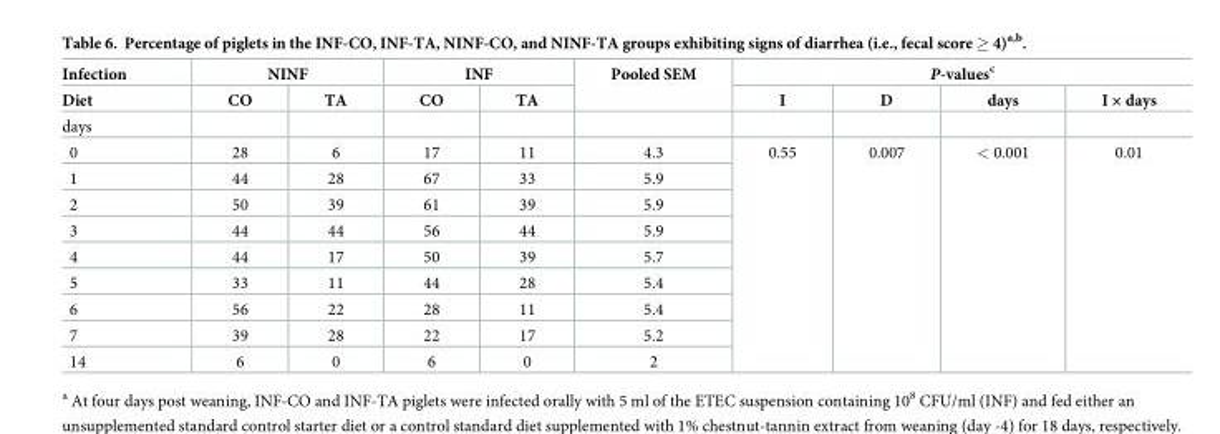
<table><thead><tr><td rowspan="2">Infection Diet</td><td colspan="2">NINF</td><td colspan="2">INF</td><td rowspan="2">Pooled SEM</td><td colspan="4">P-values<sup>c</sup></td></tr><tr><td>CO</td><td>TA</td><td>CO</td><td>TA</td><td>I</td><td>D</td><td>days</td><td>I × days</td></tr></thead><tbody><tr><td colspan="10">days</td></tr><tr><td>0</td><td>28</td><td>6</td><td>17</td><td>11</td><td>4.3</td><td rowspan="9">0.55</td><td rowspan="9">0.007</td><td rowspan="9">&lt; 0.001</td><td rowspan="9">0.01</td></tr><tr><td>1</td><td>44</td><td>28</td><td>67</td><td>33</td><td>5.9</td></tr><tr><td>2</td><td>50</td><td>39</td><td>61</td><td>39</td><td>5.9</td></tr><tr><td>3</td><td>44</td><td>44</td><td>56</td><td>44</td><td>5.9</td></tr><tr><td>4</td><td>44</td><td>17</td><td>50</td><td>39</td><td>5.7</td></tr><tr><td>5</td><td>33</td><td>11</td><td>44</td><td>28</td><td>5.4</td></tr><tr><td>6</td><td>56</td><td>22</td><td>28</td><td>11</td><td>5.4</td></tr><tr><td>7</td><td>39</td><td>28</td><td>22</td><td>17</td><td>5.2</td></tr><tr><td>14</td><td>6</td><td>0</td><td>6</td><td>0</td><td>2</td></tr></tbody></table>